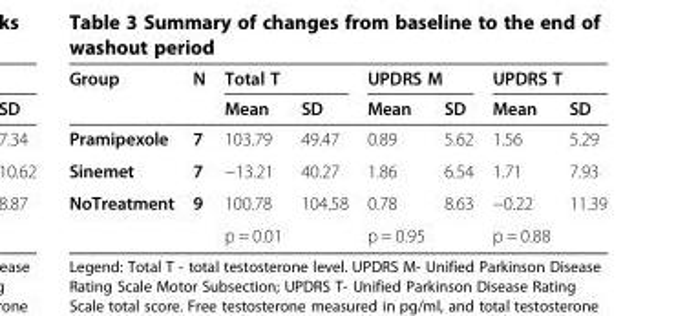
<table><thead><tr><td rowspan="2">Group</td><td rowspan="2">N</td><td colspan="2">Total T</td><td colspan="2">UPDRS M</td><td colspan="2">UPDRS T</td></tr><tr><td>Mean</td><td>SD</td><td>Mean</td><td>SD</td><td>Mean</td><td>SD</td></tr></thead><tbody><tr><td>Pramipexole</td><td>7</td><td>103.79</td><td>49.47</td><td>0.89</td><td>5.62</td><td>1.56</td><td>5.29</td></tr><tr><td>Sinemet</td><td>7</td><td>−13.21</td><td>40.27</td><td>1.86</td><td>6.54</td><td>1.71</td><td>7.93</td></tr><tr><td rowspan="2">NoTreatment</td><td>9</td><td>100.78</td><td>104.58</td><td>0.78</td><td>8.63</td><td>−0.22</td><td>11.39</td></tr><tr><td></td><td>p = 0.01</td><td></td><td>p = 0.95</td><td></td><td>p = 0.88</td><td></td></tr></tbody></table>